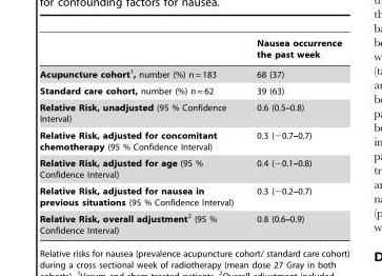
<table><thead><tr><td></td><td>Nausea occurrence the past week</td></tr></thead><tbody><tr><td>Acupuncture cohort<sup>1</sup>, number (%) n = 183</td><td>68 (37)</td></tr><tr><td>Standard care cohort, number (%) n = 62</td><td>39 (63)</td></tr><tr><td>Relative Risk, unadjusted (95 % Confidence Interval)</td><td>0.6 (0.5–0.8)</td></tr><tr><td>Relative Risk, adjusted for concomitant chemotherapy (95 % Confidence Interval)</td><td>0.3 (−0.7–0.7)</td></tr><tr><td>Relative Risk, adjusted for age (95 % Confidence Interval)</td><td>0.4 (−0.1–0.8)</td></tr><tr><td>Relative Risk, adjusted for nausea in previous situations (95 % Confidence Interval)</td><td>0.3 (−0.2–0.7)</td></tr><tr><td>Relative Risk, overall adjustment<sup>2</sup> (95 % Confidence Interval)</td><td>0.8 (0.6–0.9)</td></tr></tbody></table>